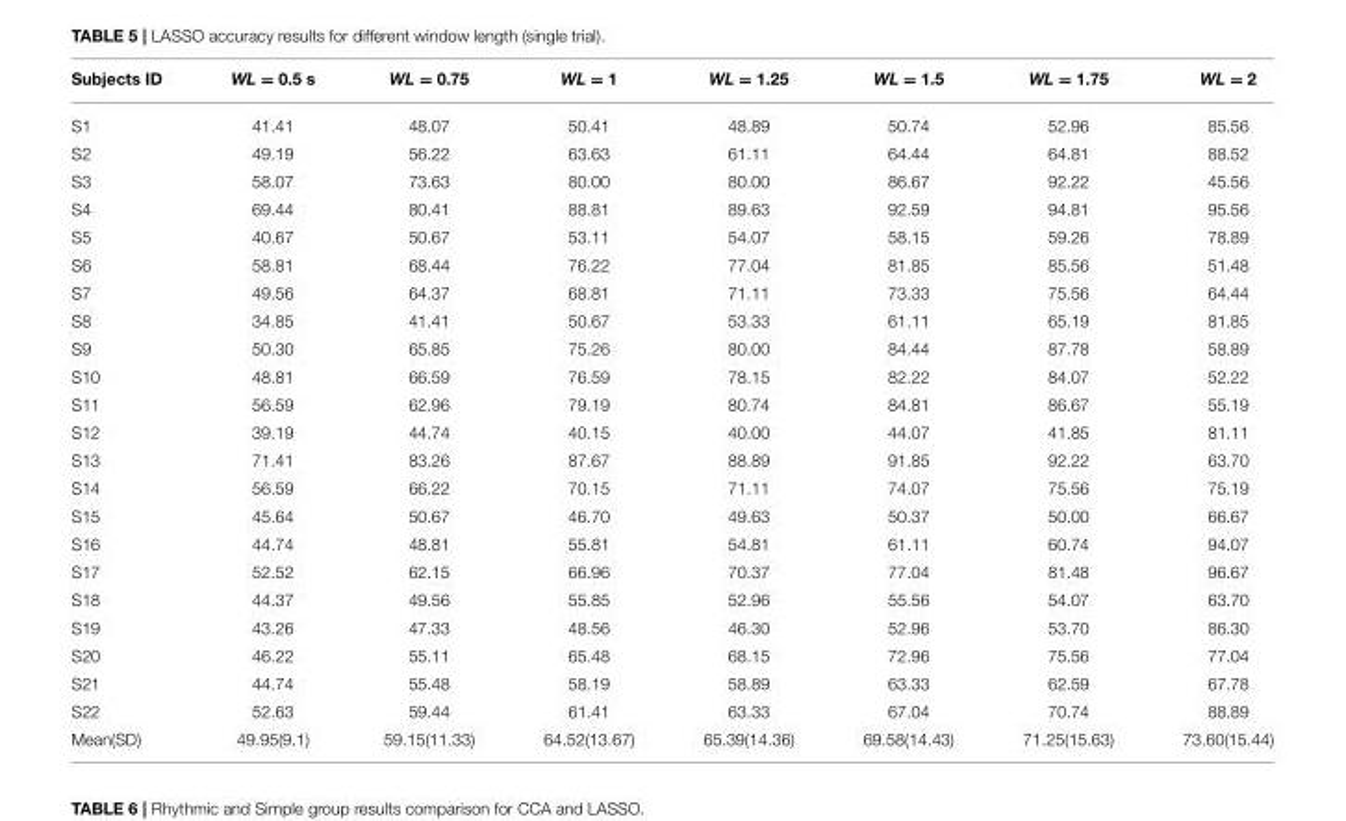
<table><thead><tr><td>Subjects ID</td><td>WL = 0.5 s</td><td>WL = 0.75</td><td>WL = 1</td><td>WL = 1.25</td><td>WL = 1.5</td><td>WL = 1.75</td><td>WL = 2</td></tr></thead><tbody><tr><td>S1</td><td>41.41</td><td>48.07</td><td>50.41</td><td>48.89</td><td>50.74</td><td>52.96</td><td>85.56</td></tr><tr><td>S2</td><td>49.19</td><td>56.22</td><td>63.63</td><td>61.11</td><td>64.44</td><td>64.81</td><td>88.52</td></tr><tr><td>S3</td><td>58.07</td><td>73.63</td><td>80.00</td><td>80.00</td><td>86.67</td><td>92.22</td><td>45.56</td></tr><tr><td>S4</td><td>69.44</td><td>80.41</td><td>88.81</td><td>89.63</td><td>92.59</td><td>94.81</td><td>95.56</td></tr><tr><td>S5</td><td>40.67</td><td>50.67</td><td>53.11</td><td>54.07</td><td>58.15</td><td>59.26</td><td>78.89</td></tr><tr><td>S6</td><td>58.81</td><td>68.44</td><td>76.22</td><td>77.04</td><td>81.85</td><td>85.56</td><td>51.48</td></tr><tr><td>S7</td><td>49.56</td><td>64.37</td><td>68.81</td><td>71.11</td><td>73.33</td><td>75.56</td><td>64.44</td></tr><tr><td>S8</td><td>34.85</td><td>41.41</td><td>50.67</td><td>53.33</td><td>61.11</td><td>65.19</td><td>81.85</td></tr><tr><td>S9</td><td>50.30</td><td>65.85</td><td>75.26</td><td>80.00</td><td>84.44</td><td>87.78</td><td>58.89</td></tr><tr><td>S10</td><td>48.81</td><td>66.59</td><td>76.59</td><td>78.15</td><td>82.22</td><td>84.07</td><td>52.22</td></tr><tr><td>S11</td><td>56.59</td><td>62.96</td><td>79.19</td><td>80.74</td><td>84.81</td><td>86.67</td><td>55.19</td></tr><tr><td>S12</td><td>39.19</td><td>44.74</td><td>40.15</td><td>40.00</td><td>44.07</td><td>41.85</td><td>81.11</td></tr><tr><td>S13</td><td>71.41</td><td>83.26</td><td>87.67</td><td>88.89</td><td>91.85</td><td>92.22</td><td>63.70</td></tr><tr><td>S14</td><td>56.59</td><td>66.22</td><td>70.15</td><td>71.11</td><td>74.07</td><td>75.56</td><td>75.19</td></tr><tr><td>S15</td><td>45.64</td><td>50.67</td><td>46.70</td><td>49.63</td><td>50.37</td><td>50.00</td><td>66.67</td></tr><tr><td>S16</td><td>44.74</td><td>48.81</td><td>55.81</td><td>54.81</td><td>61.11</td><td>60.74</td><td>94.07</td></tr><tr><td>S17</td><td>52.52</td><td>62.15</td><td>66.96</td><td>70.37</td><td>77.04</td><td>81.48</td><td>96.67</td></tr><tr><td>S18</td><td>44.37</td><td>49.56</td><td>55.85</td><td>52.96</td><td>55.56</td><td>54.07</td><td>63.70</td></tr><tr><td>S19</td><td>43.26</td><td>47.33</td><td>48.56</td><td>46.30</td><td>52.96</td><td>53.70</td><td>86.30</td></tr><tr><td>S20</td><td>46.22</td><td>55.11</td><td>65.48</td><td>68.15</td><td>72.96</td><td>75.56</td><td>77.04</td></tr><tr><td>S21</td><td>44.74</td><td>55.48</td><td>58.19</td><td>58.89</td><td>63.33</td><td>62.59</td><td>67.78</td></tr><tr><td>S22</td><td>52.63</td><td>59.44</td><td>61.41</td><td>63.33</td><td>67.04</td><td>70.74</td><td>88.89</td></tr><tr><td>Mean(SD)</td><td>49.95(9.1)</td><td>59.15(11.33)</td><td>64.52(13.67)</td><td>65.39(14.36)</td><td>69.58(14.43)</td><td>71.25(15.63)</td><td>73.60(15.44)</td></tr></tbody></table>